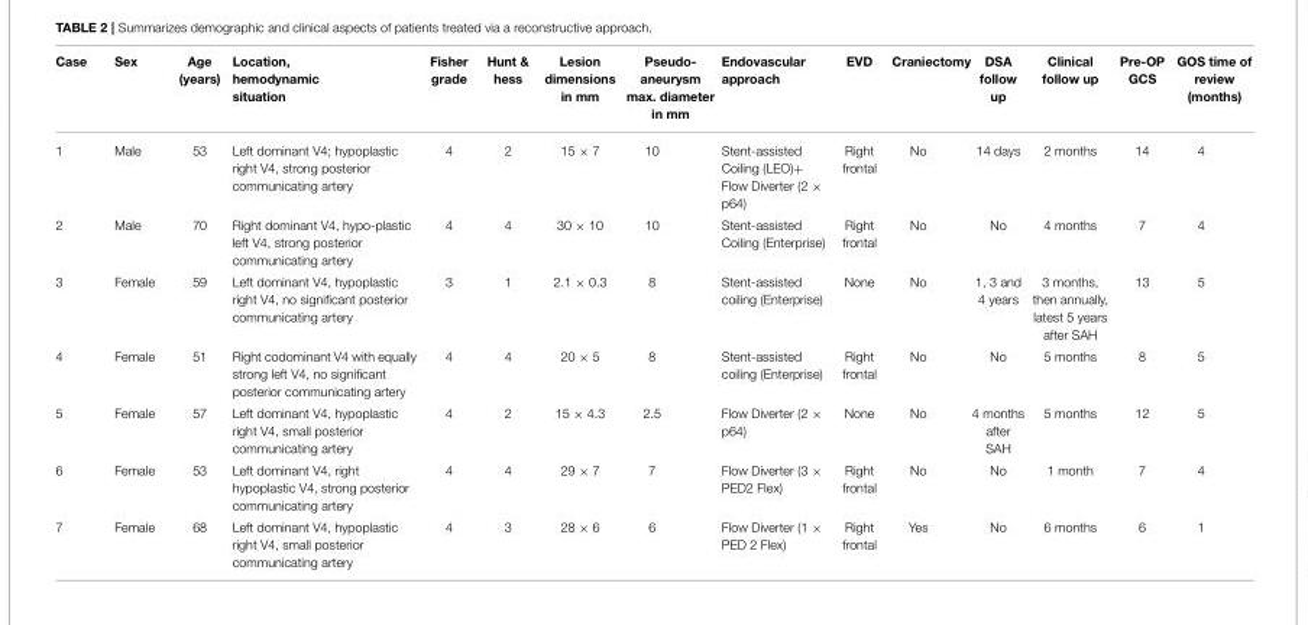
<table><thead><tr><td>Case</td><td>Sex</td><td>Age (years)</td><td>Location, hemodynamic situation</td><td>Fisher grade</td><td>Hunt &amp; hess</td><td>Lesion dimensions in mm</td><td>Pseudo- aneurysm max. diameter in mm</td><td>Endovascular approach</td><td>EVD</td><td>Craniectomy</td><td>DSA follow up</td><td>Clinical follow up</td><td>Pre-OP GCS</td><td>GOS time of review (months)</td></tr></thead><tbody><tr><td>1</td><td>Male</td><td>53</td><td>Left dominant V4; hypoplastic right V4, strong posterior communicating artery</td><td>4</td><td>2</td><td>15 × 7</td><td>10</td><td>Stent-assisted Coiling (LEO)+ Flow Diverter (2 × p64)</td><td>Right frontal</td><td>No</td><td>14 days</td><td>2 months</td><td>14</td><td>4</td></tr><tr><td>2</td><td>Male</td><td>70</td><td>Right dominant V4, hypo-plastic left V4, strong posterior communicating artery</td><td>4</td><td>4</td><td>30 × 10</td><td>10</td><td>Stent-assisted Coiling (Enterprise)</td><td>Right frontal</td><td>No</td><td>No</td><td>4 months</td><td>7</td><td>4</td></tr><tr><td>3</td><td>Female</td><td>59</td><td>Left dominant V4, hypoplastic right V4, no significant posterior communicating artery</td><td>3</td><td>1</td><td>2.1 × 0.3</td><td>8</td><td>Stent-assisted coiling (Enterprise)</td><td>None</td><td>No</td><td>1, 3 and 4 years</td><td>3 months, then annually, latest 5 years after SAH</td><td>13</td><td>5</td></tr><tr><td>4</td><td>Female</td><td>51</td><td>Right codominant V4 with equally strong left V4, no significant posterior communicating artery</td><td>4</td><td>4</td><td>20 × 5</td><td>8</td><td>Stent-assisted coiling (Enterprise)</td><td>Right frontal</td><td>No</td><td>No</td><td>5 months</td><td>8</td><td>5</td></tr><tr><td>5</td><td>Female</td><td>57</td><td>Left dominant V4, hypoplastic right V4, small posterior communicating artery</td><td>4</td><td>2</td><td>15 × 4.3</td><td>2.5</td><td>Flow Diverter (2 × p64)</td><td>None</td><td>No</td><td>4 months after SAH</td><td>5 months</td><td>12</td><td>5</td></tr><tr><td>6</td><td>Female</td><td>53</td><td>Left dominant V4, right hypoplastic V4, strong posterior communicating artery</td><td>4</td><td>4</td><td>29 × 7</td><td>7</td><td>Flow Diverter (3 × PED2 Flex)</td><td>Right frontal</td><td>No</td><td>No</td><td>1 month</td><td>7</td><td>4</td></tr><tr><td>7</td><td>Female</td><td>68</td><td>Left dominant V4, hypoplastic right V4, small posterior communicating artery</td><td>4</td><td>3</td><td>28 × 6</td><td>6</td><td>Flow Diverter (1 × PED 2 Flex)</td><td>Right frontal</td><td>Yes</td><td>No</td><td>6 months</td><td>6</td><td>1</td></tr></tbody></table>